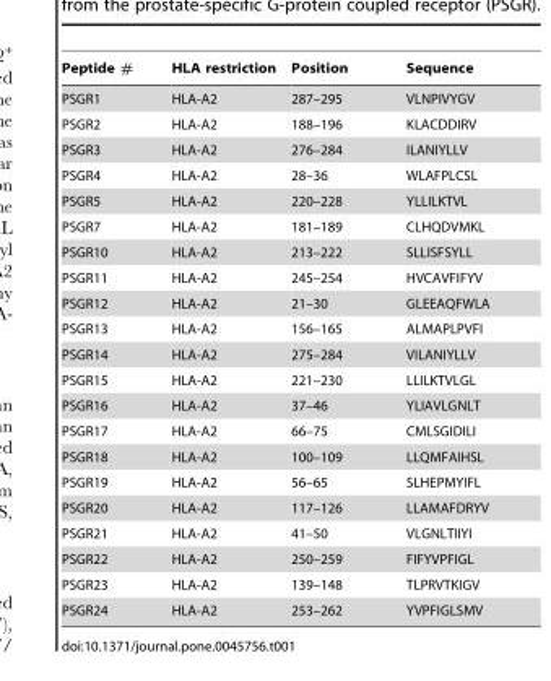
<table><thead><tr><td>Peptide #</td><td>HLA restriction</td><td>Position</td><td>Sequence</td></tr></thead><tbody><tr><td>PSGR1</td><td>HLA-A2</td><td>287–295</td><td>VLNPIVYGV</td></tr><tr><td>PSGR2</td><td>HLA-A2</td><td>188–196</td><td>KLACDDIRV</td></tr><tr><td>PSGR3</td><td>HLA-A2</td><td>276–284</td><td>ILANIYLLV</td></tr><tr><td>PSGR4</td><td>HLA-A2</td><td>28–36</td><td>WLAFPLCSL</td></tr><tr><td>PSGR5</td><td>HLA-A2</td><td>220–228</td><td>YLLILKTVL</td></tr><tr><td>PSGR7</td><td>HLA-A2</td><td>181–189</td><td>CLHQDVMKL</td></tr><tr><td>PSGR10</td><td>HLA-A2</td><td>213–222</td><td>SLLISFSYLL</td></tr><tr><td>PSGR11</td><td>HLA-A2</td><td>245–254</td><td>HVCAVFIFYV</td></tr><tr><td>PSGR12</td><td>HLA-A2</td><td>21–30</td><td>GLEEAQFWLA</td></tr><tr><td>PSGR13</td><td>HLA-A2</td><td>156–165</td><td>ALMAPLPVFI</td></tr><tr><td>PSGR14</td><td>HLA-A2</td><td>275–284</td><td>VILANIYLLV</td></tr><tr><td>PSGR15</td><td>HLA-A2</td><td>221–230</td><td>LLILKTVLGL</td></tr><tr><td>PSGR16</td><td>HLA-A2</td><td>37–46</td><td>YLIAVLGNLT</td></tr><tr><td>PSGR17</td><td>HLA-A2</td><td>66–75</td><td>CMLSGIDILI</td></tr><tr><td>PSGR18</td><td>HLA-A2</td><td>100–109</td><td>LLQMFAIHSL</td></tr><tr><td>PSGR19</td><td>HLA-A2</td><td>56–65</td><td>SLHEPMYIFL</td></tr><tr><td>PSGR20</td><td>HLA-A2</td><td>117–126</td><td>LLAMAFDRYV</td></tr><tr><td>PSGR21</td><td>HLA-A2</td><td>41–50</td><td>VLGNLTIIYI</td></tr><tr><td>PSGR22</td><td>HLA-A2</td><td>250–259</td><td>FIFYVPFIGL</td></tr><tr><td>PSGR23</td><td>HLA-A2</td><td>139–148</td><td>TLPRVTKIGV</td></tr><tr><td>PSGR24</td><td>HLA-A2</td><td>253–262</td><td>YVPFIGLSMV</td></tr></tbody></table>